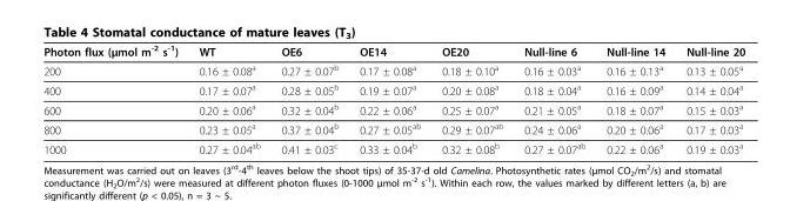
<table><thead><tr><td>Photon flux (μmol m<sup>-2</sup> s<sup>-1</sup>)</td><td>WT</td><td>OE6</td><td>OE14</td><td>OE20</td><td>Null-line 6</td><td>Null-line 14</td><td>Null-line 20</td></tr></thead><tbody><tr><td>200</td><td>0.16 ± 0.08<sup>a</sup></td><td>0.27 ± 0.07<sup>b</sup></td><td>0.17 ± 0.08<sup>a</sup></td><td>0.18 ± 0.10<sup>a</sup></td><td>0.16 ± 0.03<sup>a</sup></td><td>0.16 ± 0.13<sup>a</sup></td><td>0.13 ± 0.05<sup>a</sup></td></tr><tr><td>400</td><td>0.17 ± 0.07<sup>a</sup></td><td>0.28 ± 0.05<sup>b</sup></td><td>0.19 ± 0.07<sup>a</sup></td><td>0.20 ± 0.08<sup>a</sup></td><td>0.18 ± 0.04<sup>a</sup></td><td>0.16 ± 0.09<sup>a</sup></td><td>0.14 ± 0.04<sup>a</sup></td></tr><tr><td>600</td><td>0.20 ± 0.06<sup>a</sup></td><td>0.32 ± 0.04<sup>b</sup></td><td>0.22 ± 0.06<sup>a</sup></td><td>0.25 ± 0.07<sup>a</sup></td><td>0.21 ± 0.05<sup>a</sup></td><td>0.18 ± 0.07<sup>a</sup></td><td>0.15 ± 0.03<sup>a</sup></td></tr><tr><td>800</td><td>0.23 ± 0.05<sup>a</sup></td><td>0.37 ± 0.04<sup>b</sup></td><td>0.27 ± 0.05<sup>ab</sup></td><td>0.29 ± 0.07<sup>ab</sup></td><td>0.24 ± 0.06<sup>a</sup></td><td>0.20 ± 0.06<sup>a</sup></td><td>0.17 ± 0.03<sup>a</sup></td></tr><tr><td>1000</td><td>0.27 ± 0.04<sup>ab</sup></td><td>0.41 ± 0.03<sup>c</sup></td><td>0.33 ± 0.04<sup>b</sup></td><td>0.32 ± 0.08<sup>b</sup></td><td>0.27 ± 0.07<sup>ab</sup></td><td>0.22 ± 0.06<sup>a</sup></td><td>0.19 ± 0.03<sup>a</sup></td></tr></tbody></table>